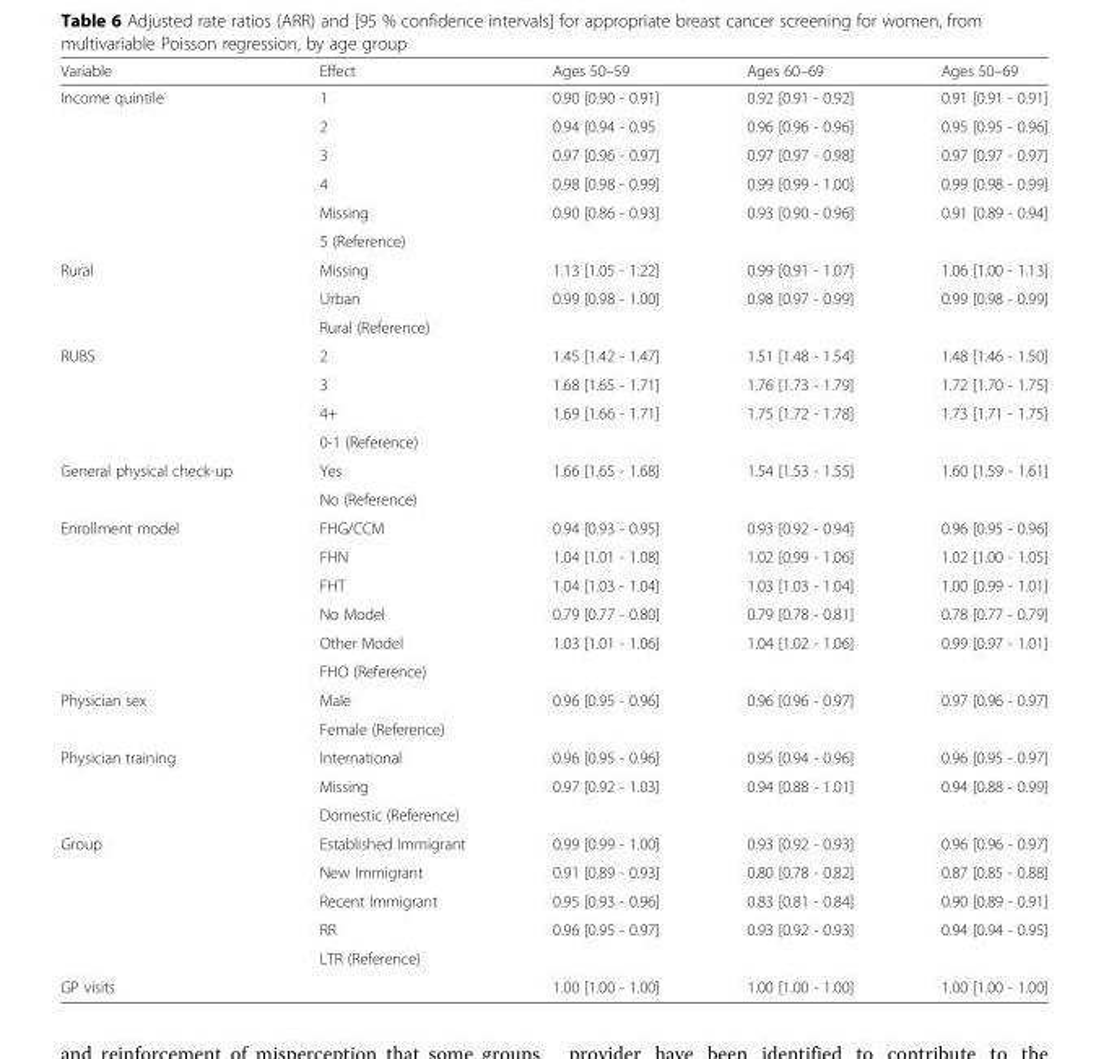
<table><thead><tr><td>Variable</td><td>Effect</td><td>Ages 50–59</td><td>Ages 60–69</td><td>Ages 50–69</td></tr></thead><tbody><tr><td rowspan="6">Income quintile</td><td>1</td><td>0.90 [0.90 - 0.91]</td><td>0.92 [0.91 - 0.92]</td><td>0.91 [0.91 - 0.91]</td></tr><tr><td>2</td><td>0.94 [0.94 - 0.95</td><td>0.96 [0.96 - 0.96]</td><td>0.95 [0.95 - 0.96]</td></tr><tr><td>3</td><td>0.97 [0.96 - 0.97]</td><td>0.97 [0.97 - 0.98]</td><td>0.97 [0.97 - 0.97]</td></tr><tr><td>4</td><td>0.98 [0.98 - 0.99]</td><td>0.99 [0.99 - 1.00]</td><td>0.99 [0.98 - 0.99]</td></tr><tr><td>Missing</td><td>0.90 [0.86 - 0.93]</td><td>0.93 [0.90 - 0.96]</td><td>0.91 [0.89 - 0.94]</td></tr><tr><td>5 (Reference)</td><td></td><td></td><td></td></tr><tr><td rowspan="3">Rural</td><td>Missing</td><td>1.13 [1.05 - 1.22]</td><td>0.99 [0.91 - 1.07]</td><td>1.06 [1.00 - 1.13]</td></tr><tr><td>Urban</td><td>0.99 [0.98 - 1.00]</td><td>0.98 [0.97 - 0.99]</td><td>0.99 [0.98 - 0.99]</td></tr><tr><td>Rural (Reference)</td><td></td><td></td><td></td></tr><tr><td rowspan="4">RUBS</td><td>2</td><td>1.45 [1.42 - 1.47]</td><td>1.51 [1.48 - 1.54]</td><td>1.48 [1.46 - 1.50]</td></tr><tr><td>3</td><td>1.68 [1.65 - 1.71]</td><td>1.76 [1.73 - 1.79]</td><td>1.72 [1.70 - 1.75]</td></tr><tr><td>4+</td><td>1.69 [1.66 - 1.71]</td><td>1.75 [1.72 - 1.78]</td><td>1.73 [1.71 - 1.75]</td></tr><tr><td>0-1 (Reference)</td><td></td><td></td><td></td></tr><tr><td rowspan="2">General physical check-up</td><td>Yes</td><td>1.66 [1.65 - 1.68]</td><td>1.54 [1.53 - 1.55]</td><td>1.60 [1.59 - 1.61]</td></tr><tr><td>No (Reference)</td><td></td><td></td><td></td></tr><tr><td rowspan="6">Enrollment model</td><td>FHG/CCM</td><td>0.94 [0.93 - 0.95]</td><td>0.93 [0.92 - 0.94]</td><td>0.96 [0.95 - 0.96]</td></tr><tr><td>FHN</td><td>1.04 [1.01 - 1.08]</td><td>1.02 [0.99 - 1.06]</td><td>1.02 [1.00 - 1.05]</td></tr><tr><td>FHT</td><td>1.04 [1.03 - 1.04]</td><td>1.03 [1.03 - 1.04]</td><td>1.00 [0.99 - 1.01]</td></tr><tr><td>No Model</td><td>0.79 [0.77 - 0.80]</td><td>0.79 [0.78 - 0.81]</td><td>0.78 [0.77 - 0.79]</td></tr><tr><td>Other Model</td><td>1.03 [1.01 - 1.06]</td><td>1.04 [1.02 - 1.06]</td><td>0.99 [0.97 - 1.01]</td></tr><tr><td>FHO (Reference)</td><td></td><td></td><td></td></tr><tr><td rowspan="2">Physician sex</td><td>Male</td><td>0.96 [0.95 - 0.96]</td><td>0.96 [0.96 - 0.97]</td><td>0.97 [0.96 - 0.97]</td></tr><tr><td>Female (Reference)</td><td></td><td></td><td></td></tr><tr><td rowspan="3">Physician training</td><td>International</td><td>0.96 [0.95 - 0.96]</td><td>0.95 [0.94 - 0.96]</td><td>0.96 [0.95 - 0.97]</td></tr><tr><td>Missing</td><td>0.97 [0.92 - 1.03]</td><td>0.94 [0.88 - 1.01]</td><td>0.94 [0.88 - 0.99]</td></tr><tr><td>Domestic (Reference)</td><td></td><td></td><td></td></tr><tr><td rowspan="5">Group</td><td>Established Immigrant</td><td>0.99 [0.99 - 1.00]</td><td>0.93 [0.92 - 0.93]</td><td>0.96 [0.96 - 0.97]</td></tr><tr><td>New Immigrant</td><td>0.91 [0.89 - 0.93]</td><td>0.80 [0.78 - 0.82]</td><td>0.87 [0.85 - 0.88]</td></tr><tr><td>Recent Immigrant</td><td>0.95 [0.93 - 0.96]</td><td>0.83 [0.81 - 0.84]</td><td>0.90 [0.89 - 0.91]</td></tr><tr><td>RR</td><td>0.96 [0.95 - 0.97]</td><td>0.93 [0.92 - 0.93]</td><td>0.94 [0.94 - 0.95]</td></tr><tr><td>LTR (Reference)</td><td></td><td></td><td></td></tr><tr><td>GP visits</td><td></td><td>1.00 [1.00 - 1.00]</td><td>1.00 [1.00 - 1.00]</td><td>1.00 [1.00 - 1.00]</td></tr></tbody></table>